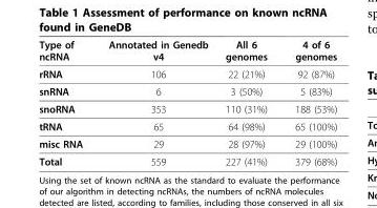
<table><thead><tr><td>Type of ncRNA</td><td>Annotated in Genedb v4</td><td>All 6 genomes</td><td>4 of 6 genomes</td></tr></thead><tbody><tr><td>rRNA</td><td>106</td><td>22 (21%)</td><td>92 (87%)</td></tr><tr><td>snRNA</td><td>6</td><td>3 (50%)</td><td>5 (83%)</td></tr><tr><td>snoRNA</td><td>353</td><td>110 (31%)</td><td>188 (53%)</td></tr><tr><td>tRNA</td><td>65</td><td>64 (98%)</td><td>65 (100%)</td></tr><tr><td>misc RNA</td><td>29</td><td>28 (97%)</td><td>29 (100%)</td></tr><tr><td>Total</td><td>559</td><td>227 (41%)</td><td>379 (68%)</td></tr></tbody></table>